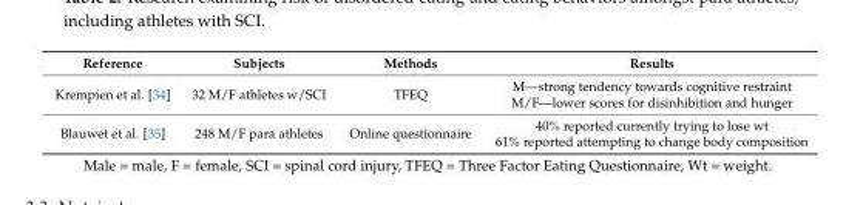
<table><thead><tr><td>Reference</td><td>Subjects</td><td>Methods</td><td>Results</td></tr></thead><tbody><tr><td>Krempien et al. [34]</td><td>32 M/F athletes w/SCI</td><td>TFEQ</td><td>M—strong tendency towards cognitive restraint M/F—lower scores for disinhibition and hunger</td></tr><tr><td>Blauwet et al. [35]</td><td>248 M/F para athletes</td><td>Online questionnaire</td><td>40% reported currently trying to lose wt 61% reported attempting to change body composition</td></tr></tbody></table>